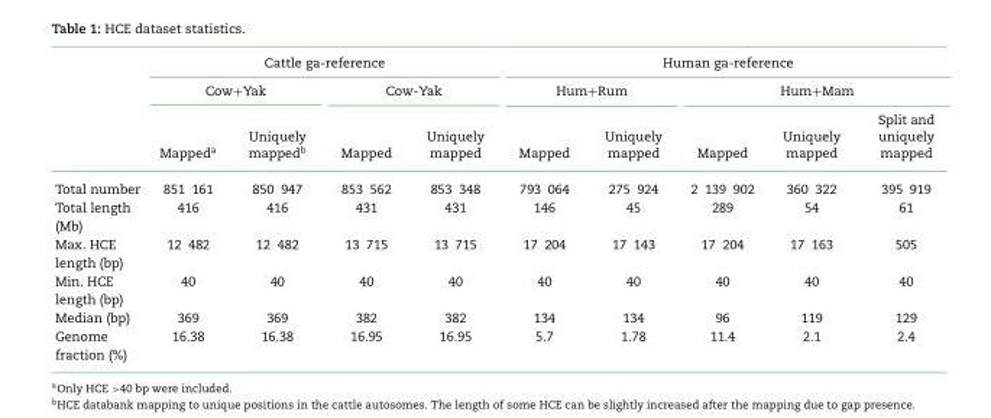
<table><thead><tr><td rowspan="3"></td><td colspan="4">Cattle ga-reference</td><td colspan="5">Human ga-reference</td></tr><tr><td colspan="2">Cow+Yak</td><td colspan="2">Cow-Yak</td><td colspan="2">Hum+Rum</td><td colspan="3">Hum+Mam</td></tr><tr><td>Mapped<sup>a</sup></td><td>Uniquely mapped<sup>b</sup></td><td>Mapped</td><td>Uniquely mapped</td><td>Mapped</td><td>Uniquely mapped</td><td>Mapped</td><td>Uniquely mapped</td><td>Split and uniquely mapped</td></tr></thead><tbody><tr><td>Total number</td><td>851 161</td><td>850 947</td><td>853 562</td><td>853 348</td><td>793 064</td><td>275 924</td><td>2 139 902</td><td>360 322</td><td>395 919</td></tr><tr><td>Total length (Mb)</td><td>416</td><td>416</td><td>431</td><td>431</td><td>146</td><td>45</td><td>289</td><td>54</td><td>61</td></tr><tr><td>Max. HCE length (bp)</td><td>12 482</td><td>12 482</td><td>13 715</td><td>13 715</td><td>17 204</td><td>17 143</td><td>17 204</td><td>17 163</td><td>505</td></tr><tr><td>Min. HCE length (bp)</td><td>40</td><td>40</td><td>40</td><td>40</td><td>40</td><td>40</td><td>40</td><td>40</td><td>40</td></tr><tr><td>Median (bp)</td><td>369</td><td>369</td><td>382</td><td>382</td><td>134</td><td>134</td><td>96</td><td>119</td><td>129</td></tr><tr><td>Genome fraction (%)</td><td>16.38</td><td>16.38</td><td>16.95</td><td>16.95</td><td>5.7</td><td>1.78</td><td>11.4</td><td>2.1</td><td>2.4</td></tr></tbody></table>